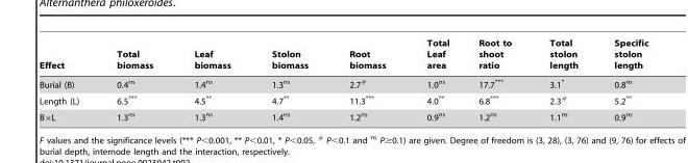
<table><thead><tr><td>Effect</td><td>Total biomass</td><td>Leaf biomass</td><td>Stolon biomass</td><td>Root biomass</td><td>Total Leaf area</td><td>Root to shoot ratio</td><td>Total stolon length</td><td>Specific stolon length</td></tr></thead><tbody><tr><td>Burial (B)</td><td>0.4<sup>ns</sup></td><td>1.4<sup>ns</sup></td><td>1.3<sup>ns</sup></td><td>2.7<sup>#</sup></td><td>1.0<sup>ns</sup></td><td>17.7***</td><td>3.1*</td><td>0.8<sup>ns</sup></td></tr><tr><td>Length (L)</td><td>6.5***</td><td>4.5**</td><td>4.7**</td><td>11.3***</td><td>4.0**</td><td>6.8***</td><td>2.3<sup>#</sup></td><td>5.2**</td></tr><tr><td>B×L</td><td>1.3<sup>ns</sup></td><td>1.3<sup>ns</sup></td><td>1.4<sup>ns</sup></td><td>1.2<sup>ns</sup></td><td>0.9<sup>ns</sup></td><td>1.2<sup>ns</sup></td><td>1.1<sup>ns</sup></td><td>0.9<sup>ns</sup></td></tr></tbody></table>